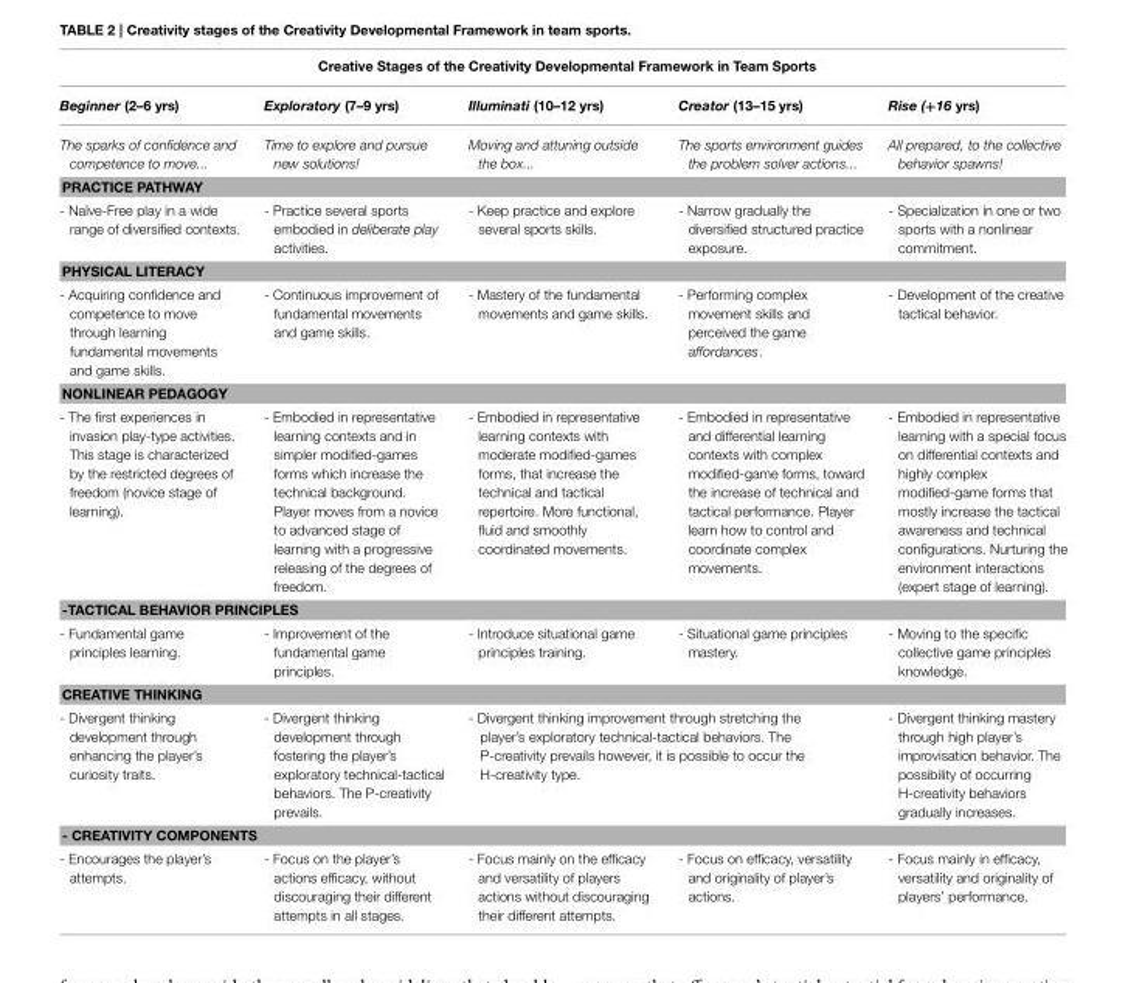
<table><thead><tr><td colspan="5">Creative Stages of the Creativity Developmental Framework in Team Sports</td></tr><tr><td>Beginner (2–6 yrs)</td><td>Exploratory (7–9 yrs)</td><td>Illuminati (10–12 yrs)</td><td>Creator (13–15 yrs)</td><td>Rise (+16 yrs)</td></tr></thead><tbody><tr><td>The sparks of confidence and competence to move...</td><td>Time to explore and pursue new solutions!</td><td>Moving and attuning outside the box...</td><td>The sports environment guides the problem solver actions...</td><td>All prepared, to the collective behavior spawns!</td></tr><tr><td colspan="5">PRACTICE PATHWAY</td></tr><tr><td>- Naïve-Free play in a wide range of diversified contexts.</td><td>- Practice several sports embodied in deliberate play activities.</td><td>- Keep practice and explore several sports skills.</td><td>- Narrow gradually the diversified structured practice exposure.</td><td>- Specialization in one or two sports with a nonlinear commitment.</td></tr><tr><td colspan="5">PHYSICAL LITERACY</td></tr><tr><td>- Acquiring confidence and competence to move through learning fundamental movements and game skills.</td><td>- Continuous improvement of fundamental movements and game skills.</td><td>- Mastery of the fundamental movements and game skills.</td><td>- Performing complex movement skills and perceived the game affordances.</td><td>- Development of the creative tactical behavior.</td></tr><tr><td colspan="5">NONLINEAR PEDAGOGY</td></tr><tr><td>- The first experiences in invasion play-type activities. This stage is characterized by the restricted degrees of freedom (novice stage of learning).</td><td>- Embodied in representative learning contexts and in simpler modified-games forms which increase the technical background. Player moves from a novice to advanced stage of learning with a progressive releasing of the degrees of freedom.</td><td>- Embodied in representative learning contexts with moderate modified-games forms, that increase the technical and tactical repertoire. More functional, fluid and smoothly coordinated movements.</td><td>- Embodied in representative and differential learning contexts with complex modified-game forms, toward the increase of technical and tactical performance. Player learn how to control and coordinate complex movements.</td><td>- Embodied in representative learning with a special focus on differential contexts and highly complex modified-game forms that mostly increase the tactical awareness and technical configurations. Nurturing the environment interactions (expert stage of learning).</td></tr><tr><td colspan="5">-TACTICAL BEHAVIOR PRINCIPLES</td></tr><tr><td>- Fundamental game principles learning.</td><td>- Improvement of the fundamental game principles.</td><td>- Introduce situational game principles training.</td><td>- Situational game principles mastery.</td><td>- Moving to the specific collective game principles knowledge.</td></tr><tr><td colspan="5">CREATIVE THINKING</td></tr><tr><td>- Divergent thinking development through enhancing the player’s curiosity traits.</td><td>- Divergent thinking development through fostering the player’s exploratory technical-tactical behaviors. The P-creativity prevails.</td><td colspan="2">- Divergent thinking improvement through stretching the player’s exploratory technical-tactical behaviors. The P-creativity prevails however, it is possible to occur the H-creativity type.</td><td>- Divergent thinking mastery through high player’s improvisation behavior. The possibility of occurring H-creativity behaviors gradually increases.</td></tr><tr><td colspan="5">- CREATIVITY COMPONENTS</td></tr><tr><td>- Encourages the player’s attempts.</td><td>- Focus on the player’s actions efficacy, without discouraging their different attempts in all stages.</td><td>- Focus mainly on the efficacy and versatility of players actions without discouraging their different attempts.</td><td>- Focus on efficacy, versatility and originality of player’s actions.</td><td>- Focus mainly in efficacy, versatility and originality of players’ performance.</td></tr></tbody></table>